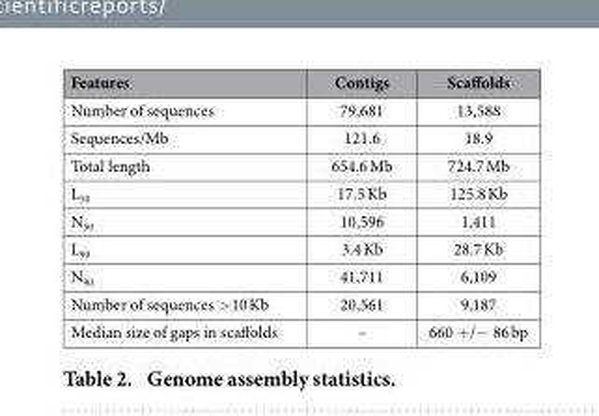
<table><thead><tr><td>Features</td><td>Contigs</td><td>Scaffolds</td></tr></thead><tbody><tr><td>Number of sequences</td><td>79,681</td><td>13,588</td></tr><tr><td>Sequences/Mb</td><td>121.6</td><td>18.9</td></tr><tr><td>Total length</td><td>654.6 Mb</td><td>724.7 Mb</td></tr><tr><td>L<sub>50</sub></td><td>17.5 Kb</td><td>125.8 Kb</td></tr><tr><td>N<sub>50</sub></td><td>10,596</td><td>1,411</td></tr><tr><td>L<sub>90</sub></td><td>3.4 Kb</td><td>28.7 Kb</td></tr><tr><td>N<sub>90</sub></td><td>41,711</td><td>6,109</td></tr><tr><td>Number of sequences &gt; 10 Kb</td><td>20,561</td><td>9,187</td></tr><tr><td>Median size of gaps in scaffolds</td><td>–</td><td>660 + /− 86 bp</td></tr></tbody></table>